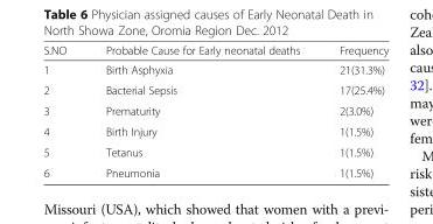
<table><thead><tr><td>S.NO</td><td>Probable Cause for Early neonatal deaths</td><td>Frequency</td></tr></thead><tbody><tr><td>1</td><td>Birth Asphyxia</td><td>21(31.3%)</td></tr><tr><td>2</td><td>Bacterial Sepsis</td><td>17(25.4%)</td></tr><tr><td>3</td><td>Prematurity</td><td>2(3.0%)</td></tr><tr><td>4</td><td>Birth Injury</td><td>1(1.5%)</td></tr><tr><td>5</td><td>Tetanus</td><td>1(1.5%)</td></tr><tr><td>6</td><td>Pneumonia</td><td>1(1.5%)</td></tr></tbody></table>